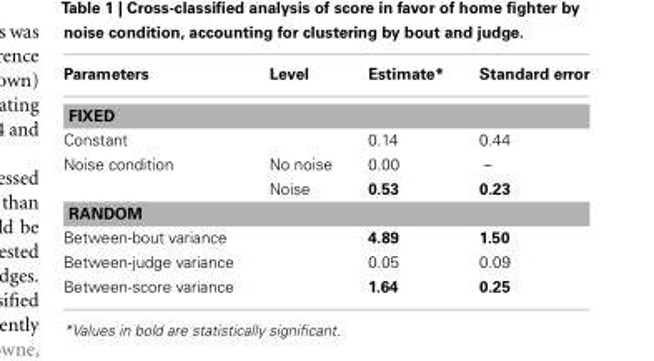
<table><thead><tr><td>Parameters</td><td>Level</td><td>Estimate*</td><td>Standard error</td></tr></thead><tbody><tr><td colspan="4">FIXED</td></tr><tr><td>Constant</td><td></td><td>0.14</td><td>0.44</td></tr><tr><td rowspan="2">Noise condition</td><td>No noise</td><td>0.00</td><td>–</td></tr><tr><td>Noise</td><td>0.53</td><td>0.23</td></tr><tr><td colspan="4">RANDOM</td></tr><tr><td>Between-bout variance</td><td></td><td>4.89</td><td>1.50</td></tr><tr><td>Between-judge variance</td><td></td><td>0.05</td><td>0.09</td></tr><tr><td>Between-score variance</td><td></td><td>1.64</td><td>0.25</td></tr></tbody></table>